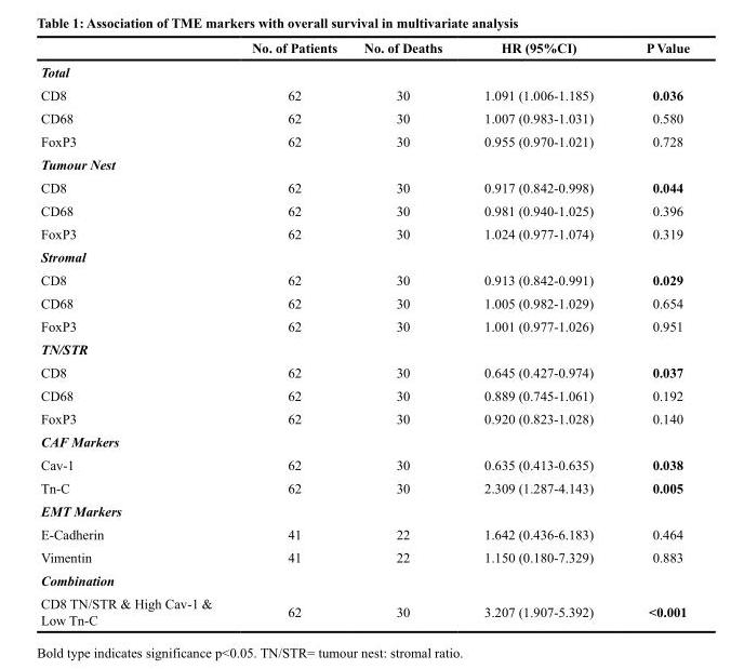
<table><thead><tr><td></td><td>No. of Patients</td><td>No. of Deaths</td><td>HR (95%CI)</td><td>P Value</td></tr></thead><tbody><tr><td colspan="5">Total</td></tr><tr><td>CD8</td><td>62</td><td>30</td><td>1.091 (1.006-1.185)</td><td>0.036</td></tr><tr><td>CD68</td><td>62</td><td>30</td><td>1.007 (0.983-1.031)</td><td>0.580</td></tr><tr><td>FoxP3</td><td>62</td><td>30</td><td>0.955 (0.970-1.021)</td><td>0.728</td></tr><tr><td colspan="5">Tumour Nest</td></tr><tr><td>CD8</td><td>62</td><td>30</td><td>0.917 (0.842-0.998)</td><td>0.044</td></tr><tr><td>CD68</td><td>62</td><td>30</td><td>0.981 (0.940-1.025)</td><td>0.396</td></tr><tr><td>FoxP3</td><td>62</td><td>30</td><td>1.024 (0.977-1.074)</td><td>0.319</td></tr><tr><td colspan="5">Stromal</td></tr><tr><td>CD8</td><td>62</td><td>30</td><td>0.913 (0.842-0.991)</td><td>0.029</td></tr><tr><td>CD68</td><td>62</td><td>30</td><td>1.005 (0.982-1.029)</td><td>0.654</td></tr><tr><td>FoxP3</td><td>62</td><td>30</td><td>1.001 (0.977-1.026)</td><td>0.951</td></tr><tr><td colspan="5">TN/STR</td></tr><tr><td>CD8</td><td>62</td><td>30</td><td>0.645 (0.427-0.974)</td><td>0.037</td></tr><tr><td>CD68</td><td>62</td><td>30</td><td>0.889 (0.745-1.061)</td><td>0.192</td></tr><tr><td>FoxP3</td><td>62</td><td>30</td><td>0.920 (0.823-1.028)</td><td>0.140</td></tr><tr><td colspan="5">CAF Markers</td></tr><tr><td>Cav-1</td><td>62</td><td>30</td><td>0.635 (0.413-0.635)</td><td>0.038</td></tr><tr><td>Tn-C</td><td>62</td><td>30</td><td>2.309 (1.287-4.143)</td><td>0.005</td></tr><tr><td colspan="5">EMT Markers</td></tr><tr><td>E-Cadherin</td><td>41</td><td>22</td><td>1.642 (0.436-6.183)</td><td>0.464</td></tr><tr><td>Vimentin</td><td>41</td><td>22</td><td>1.150 (0.180-7.329)</td><td>0.883</td></tr><tr><td colspan="5">Combination</td></tr><tr><td>CD8 TN/STR &amp; High Cav-1 &amp; Low Tn-C</td><td>62</td><td>30</td><td>3.207 (1.907-5.392)</td><td>&lt;0.001</td></tr></tbody></table>